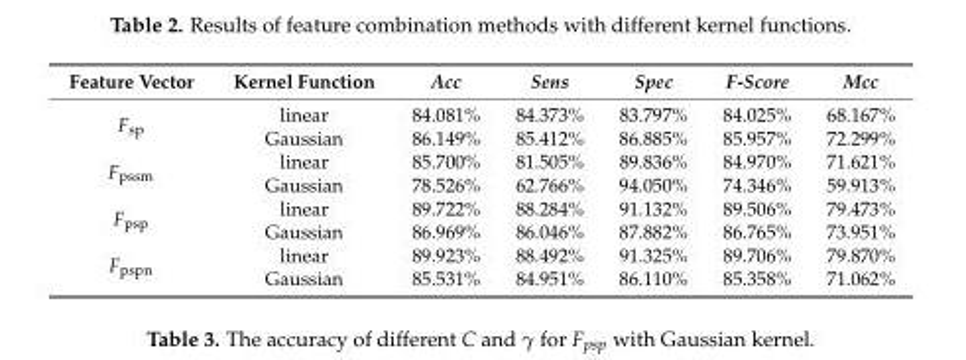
<table><thead><tr><td>Feature Vector</td><td>Kernel Function</td><td>Acc</td><td>Sens</td><td>Spec</td><td>F-Score</td><td>Mcc</td></tr></thead><tbody><tr><td rowspan="2">F<sub>sp</sub></td><td>linear</td><td>84.081%</td><td>84.373%</td><td>83.797%</td><td>84.025%</td><td>68.167%</td></tr><tr><td>Gaussian</td><td>86.149%</td><td>85.412%</td><td>86.885%</td><td>85.957%</td><td>72.299%</td></tr><tr><td rowspan="2">F<sub>pssm</sub></td><td>linear</td><td>85.700%</td><td>81.505%</td><td>89.836%</td><td>84.970%</td><td>71.621%</td></tr><tr><td>Gaussian</td><td>78.526%</td><td>62.766%</td><td>94.050%</td><td>74.346%</td><td>59.913%</td></tr><tr><td rowspan="2">F<sub>psp</sub></td><td>linear</td><td>89.722%</td><td>88.284%</td><td>91.132%</td><td>89.506%</td><td>79.473%</td></tr><tr><td>Gaussian</td><td>86.969%</td><td>86.046%</td><td>87.882%</td><td>86.765%</td><td>73.951%</td></tr><tr><td rowspan="2">F<sub>pspn</sub></td><td>linear</td><td>89.923%</td><td>88.492%</td><td>91.325%</td><td>89.706%</td><td>79.870%</td></tr><tr><td>Gaussian</td><td>85.531%</td><td>84.951%</td><td>86.110%</td><td>85.358%</td><td>71.062%</td></tr></tbody></table>